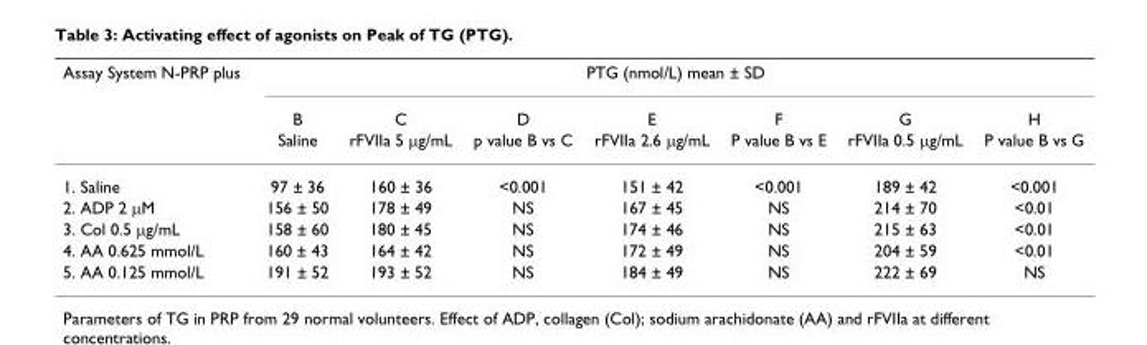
<table><thead><tr><td rowspan="3">Assay System N-PRP plus</td><td colspan="7">PTG (nmol/L) mean ± SD</td></tr><tr><td rowspan="2">B Saline</td><td rowspan="2">C rFVIIa 5 µg/mL</td><td rowspan="2">D p value B vs C</td><td rowspan="2">E rFVIIa 2.6 µg/mL</td><td rowspan="2">F P value B vs E</td><td rowspan="2">G rFVIIa 0.5 µg/mL</td><td rowspan="2">H P value B vs G</td></tr><tr></tr></thead><tbody><tr><td>1. Saline</td><td>97 ± 36</td><td>160 ± 36</td><td>&lt;0.001</td><td>151 ± 42</td><td>&lt;0.001</td><td>189 ± 42</td><td>&lt;0.001</td></tr><tr><td>2. ADP 2 µM</td><td>156 ± 50</td><td>178 ± 49</td><td>NS</td><td>167 ± 45</td><td>NS</td><td>214 ± 70</td><td>&lt;0.01</td></tr><tr><td>3. Col 0.5 µg/mL</td><td>158 ± 60</td><td>180 ± 45</td><td>NS</td><td>174 ± 46</td><td>NS</td><td>215 ± 63</td><td>&lt;0.01</td></tr><tr><td>4. AA 0.625 mmol/L</td><td>160 ± 43</td><td>164 ± 42</td><td>NS</td><td>172 ± 49</td><td>NS</td><td>204 ± 59</td><td>&lt;0.01</td></tr><tr><td>5. AA 0.125 mmol/L</td><td>191 ± 52</td><td>193 ± 52</td><td>NS</td><td>184 ± 49</td><td>NS</td><td>222 ± 69</td><td>NS</td></tr></tbody></table>